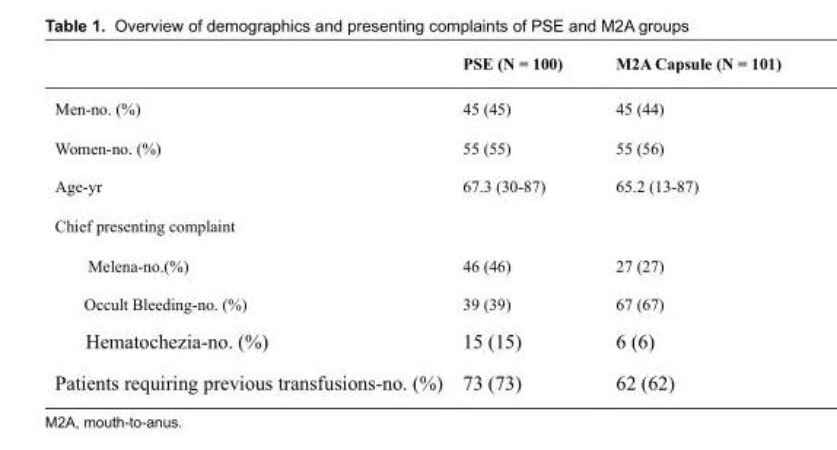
<table><thead><tr><td></td><td>PSE (N = 100)</td><td>M2A Capsule (N = 101)</td></tr></thead><tbody><tr><td>Men-no. (%)</td><td>45 (45)</td><td>45 (44)</td></tr><tr><td>Women-no. (%)</td><td>55 (55)</td><td>55 (56)</td></tr><tr><td>Age-yr</td><td>67.3 (30-87)</td><td>65.2 (13-87)</td></tr><tr><td colspan="3">Chief presenting complaint</td></tr><tr><td>Melena-no.(%)</td><td>46 (46)</td><td>27 (27)</td></tr><tr><td>Occult Bleeding-no. (%)</td><td>39 (39)</td><td>67 (67)</td></tr><tr><td>Hematochezia-no. (%)</td><td>15 (15)</td><td>6 (6)</td></tr><tr><td>Patients requiring previous transfusions-no. (%)</td><td>73 (73)</td><td>62 (62)</td></tr></tbody></table>